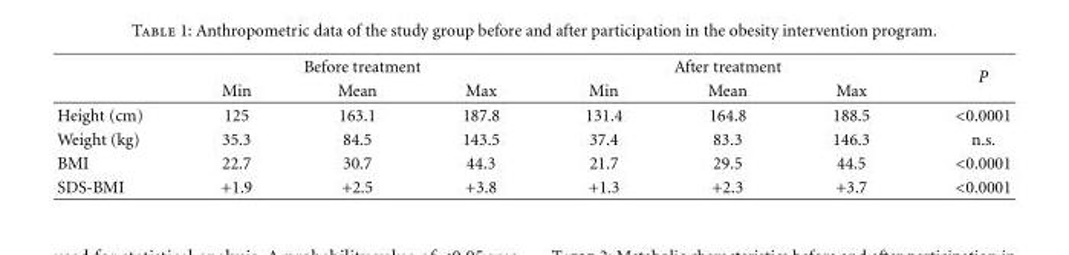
<table><thead><tr><td rowspan="2"></td><td colspan="3">Before treatment</td><td colspan="3">After treatment</td><td rowspan="2">P</td></tr><tr><td>Min</td><td>Mean</td><td>Max</td><td>Min</td><td>Mean</td><td>Max</td></tr></thead><tbody><tr><td>Height (cm)</td><td>125</td><td>163.1</td><td>187.8</td><td>131.4</td><td>164.8</td><td>188.5</td><td>&lt;0.0001</td></tr><tr><td>Weight (kg)</td><td>35.3</td><td>84.5</td><td>143.5</td><td>37.4</td><td>83.3</td><td>146.3</td><td>n.s.</td></tr><tr><td>BMI</td><td>22.7</td><td>30.7</td><td>44.3</td><td>21.7</td><td>29.5</td><td>44.5</td><td>&lt;0.0001</td></tr><tr><td>SDS-BMI</td><td>+1.9</td><td>+2.5</td><td>+3.8</td><td>+1.3</td><td>+2.3</td><td>+3.7</td><td>&lt;0.0001</td></tr></tbody></table>